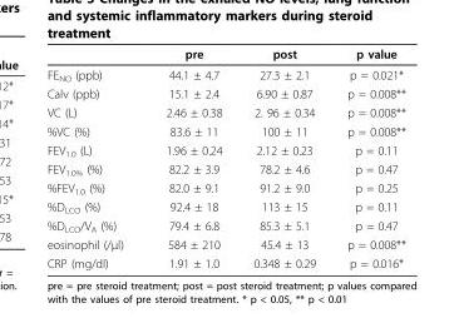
<table><thead><tr><td></td><td>pre</td><td>post</td><td>p value</td></tr></thead><tbody><tr><td>FE<sub>NO</sub> (ppb)</td><td>44.1 ± 4.7</td><td>27.3 ± 2.1</td><td>p = 0.021*</td></tr><tr><td>Calv (ppb)</td><td>15.1 ± 2.4</td><td>6.90 ± 0.87</td><td>p = 0.008**</td></tr><tr><td>VC (L)</td><td>2.46 ± 0.38</td><td>2. 96 ± 0.34</td><td>p = 0.008**</td></tr><tr><td>%VC (%)</td><td>83.6 ± 11</td><td>100 ± 11</td><td>p = 0.008**</td></tr><tr><td>FEV<sub>1.0</sub> (L)</td><td>1.96 ± 0.24</td><td>2.12 ± 0.23</td><td>p = 0.11</td></tr><tr><td>FEV<sub>1.0%</sub> (%)</td><td>82.2 ± 3.9</td><td>78.2 ± 4.6</td><td>p = 0.47</td></tr><tr><td>%FEV<sub>1.0</sub> (%)</td><td>82.0 ± 9.1</td><td>91.2 ± 9.0</td><td>p = 0.25</td></tr><tr><td>%D<sub>LCO</sub> (%)</td><td>92.4 ± 18</td><td>113 ± 15</td><td>p = 0.11</td></tr><tr><td>%D<sub>LCO</sub>/V<sub>A</sub> (%)</td><td>79.4 ± 6.8</td><td>85.3 ± 5.1</td><td>p = 0.47</td></tr><tr><td>eosinophil (/μl)</td><td>584 ± 210</td><td>45.4 ± 13</td><td>p = 0.008**</td></tr><tr><td>CRP (mg/dl)</td><td>1.91 ± 1.0</td><td>0.348 ± 0.29</td><td>p = 0.016*</td></tr></tbody></table>